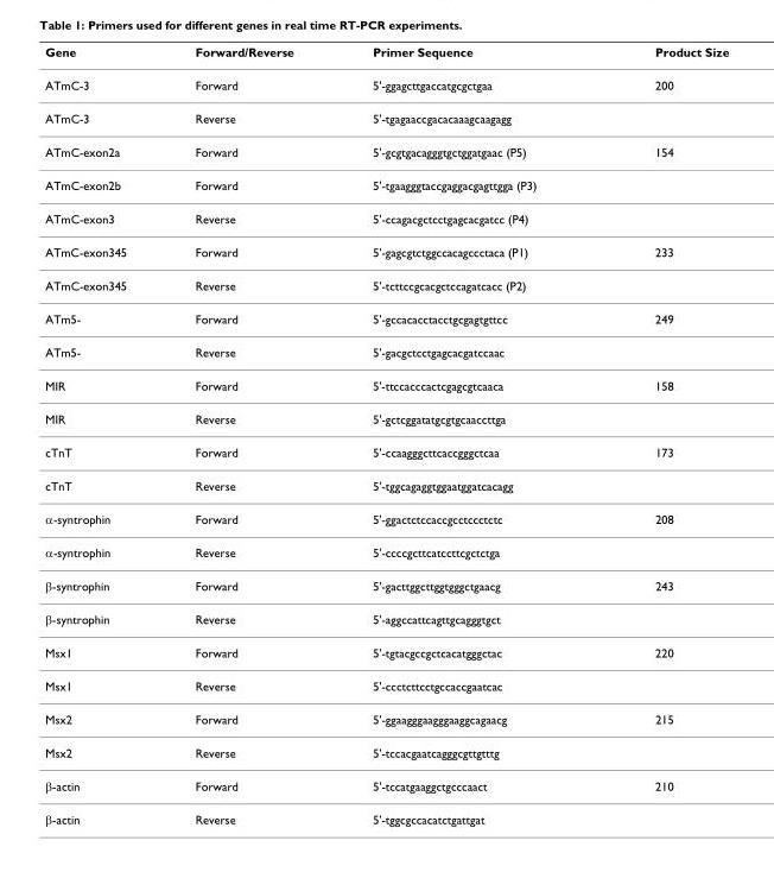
<table><thead><tr><td>Gene</td><td>Forward/Reverse</td><td>Primer Sequence</td><td>Product Size</td></tr></thead><tbody><tr><td>ATmC-3</td><td>Forward</td><td>5&#x27;-ggagcttgaccatgcgctgaa</td><td>200</td></tr><tr><td>ATmC-3</td><td>Reverse</td><td>5&#x27;-tgagaaccgacacaaagcaagagg</td><td></td></tr><tr><td>ATmC-exon2a</td><td>Forward</td><td>5&#x27;-gcgtgacagggtgctggatgaac (P5)</td><td>154</td></tr><tr><td>ATmC-exon2b</td><td>Forward</td><td>5&#x27;-tgaagggtaccgaggacgagttgga (P3)</td><td></td></tr><tr><td>ATmC-exon3</td><td>Reverse</td><td>5&#x27;-ccagacgctcctgagcacgatcc (P4)</td><td></td></tr><tr><td>ATmC-exon345</td><td>Forward</td><td>5&#x27;-gagcgtctggccacagccctaca (P1)</td><td>233</td></tr><tr><td>ATmC-exon345</td><td>Reverse</td><td>5&#x27;-tcttccgcacgctccagatcacc (P2)</td><td></td></tr><tr><td>ATm5-</td><td>Forward</td><td>5&#x27;-gccacacctacctgcgagtgttcc</td><td>249</td></tr><tr><td>ATm5-</td><td>Reverse</td><td>5&#x27;-gacgctcctgagcacgatccaac</td><td></td></tr><tr><td>MIR</td><td>Forward</td><td>5&#x27;-ttccacccactcgagcgtcaaca</td><td>158</td></tr><tr><td>MIR</td><td>Reverse</td><td>5&#x27;-gctcggatatgcgtgcaaccttga</td><td></td></tr><tr><td>cTnT</td><td>Forward</td><td>5&#x27;-ccaagggcttcaccgggctcaa</td><td>173</td></tr><tr><td>cTnT</td><td>Reverse</td><td>5&#x27;-tggcagaggtggaatggatcacagg</td><td></td></tr><tr><td>α-syntrophin</td><td>Forward</td><td>5&#x27;-ggactctccaccgcctccctctc</td><td>208</td></tr><tr><td>α-syntrophin</td><td>Reverse</td><td>5&#x27;-ccccgcttcatccttcgctctga</td><td></td></tr><tr><td>β-syntrophin</td><td>Forward</td><td>5&#x27;-gacttggcttggtgggctgaacg</td><td>243</td></tr><tr><td>β-syntrophin</td><td>Reverse</td><td>5&#x27;-aggccattcagttgcagggtgct</td><td></td></tr><tr><td>Msx1</td><td>Forward</td><td>5&#x27;-tgtacgccgctcacatgggctac</td><td>220</td></tr><tr><td>Msx1</td><td>Reverse</td><td>5&#x27;-ccctcttcctgccaccgaatcac</td><td></td></tr><tr><td>Msx2</td><td>Forward</td><td>5&#x27;-ggaagggaagggaaggcagaacg</td><td>215</td></tr><tr><td>Msx2</td><td>Reverse</td><td>5&#x27;-tccacgaatcagggcgttgtttg</td><td></td></tr><tr><td>β-actin</td><td>Forward</td><td>5&#x27;-tccatgaaggctgcccaact</td><td>210</td></tr><tr><td>β-actin</td><td>Reverse</td><td>5&#x27;-tggcgccacatctgattgat</td><td></td></tr></tbody></table>